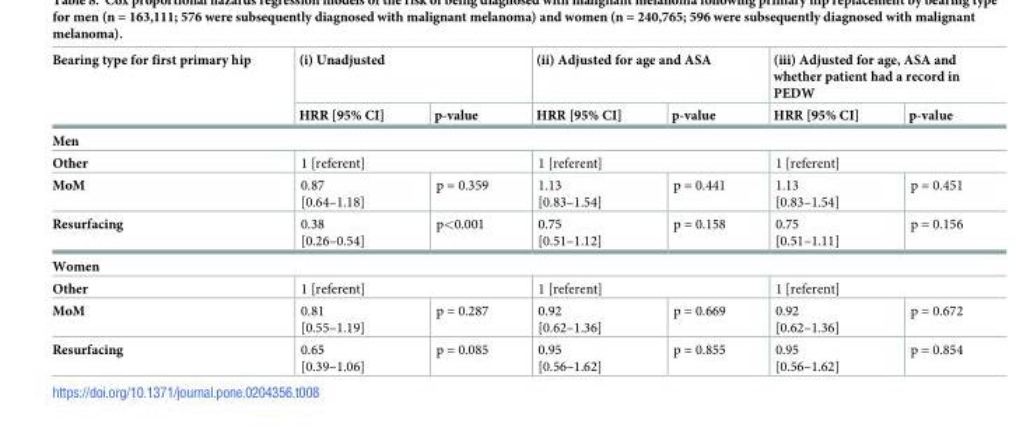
<table><thead><tr><td rowspan="2">Bearing type for first primary hip</td><td colspan="2">(i) Unadjusted</td><td colspan="2">(ii) Adjusted for age and ASA</td><td colspan="2">(iii) Adjusted for age, ASA and whether patient had a record in PEDW</td></tr><tr><td>HRR [95% CI]</td><td>p-value</td><td>HRR [95% CI]</td><td>p-value</td><td>HRR [95% CI]</td><td>p-value</td></tr></thead><tbody><tr><td colspan="7">Men</td></tr><tr><td>Other</td><td colspan="2">1 [referent]</td><td colspan="2">1 [referent]</td><td colspan="2">1 [referent]</td></tr><tr><td>MoM</td><td>0.87 [0.64–1.18]</td><td>p = 0.359</td><td>1.13 [0.83–1.54]</td><td>p = 0.441</td><td>1.13 [0.83–1.54]</td><td>p = 0.451</td></tr><tr><td>Resurfacing</td><td>0.38 [0.26–0.54]</td><td>p&lt;0.001</td><td>0.75 [0.51–1.12]</td><td>p = 0.158</td><td>0.75 [0.51–1.11]</td><td>p = 0.156</td></tr><tr><td colspan="7">Women</td></tr><tr><td>Other</td><td colspan="2">1 [referent]</td><td colspan="2">1 [referent]</td><td colspan="2">1 [referent]</td></tr><tr><td>MoM</td><td>0.81 [0.55–1.19]</td><td>p = 0.287</td><td>0.92 [0.62–1.36]</td><td>p = 0.669</td><td>0.92 [0.62–1.36]</td><td>p = 0.672</td></tr><tr><td>Resurfacing</td><td>0.65 [0.39–1.06]</td><td>p = 0.085</td><td>0.95 [0.56–1.62]</td><td>p = 0.855</td><td>0.95 [0.56–1.62]</td><td>p = 0.854</td></tr></tbody></table>